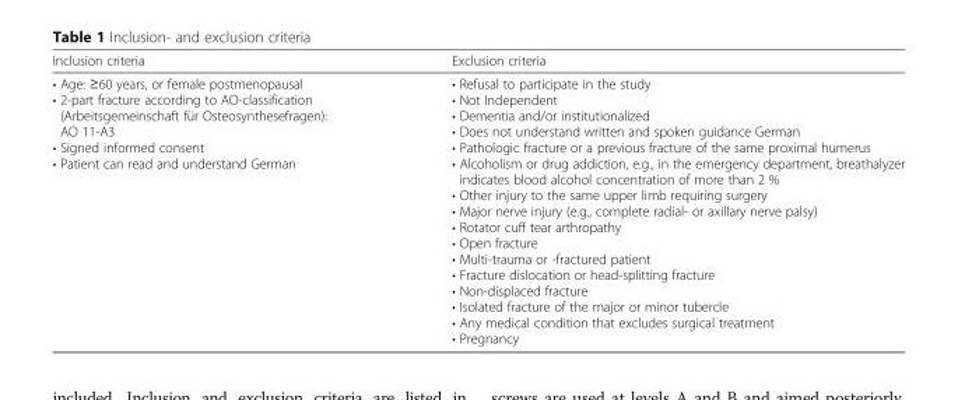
<table><thead><tr><td>Inclusion criteria</td><td>Exclusion criteria</td></tr></thead><tbody><tr><td>• Age: ≥60 years, or female postmenopausal • 2-part fracture according to AO-classification (Arbeitsgemeinschaft für Osteosynthesefragen): AO 11-A3 • Signed informed consent • Patient can read and understand German</td><td>• Refusal to participate in the study • Not Independent • Dementia and/or institutionalized • Does not understand written and spoken guidance German • Pathologic fracture or a previous fracture of the same proximal humerus • Alcoholism or drug addiction, e.g., in the emergency department, breathalyzer indicates blood alcohol concentration of more than 2 % • Other injury to the same upper limb requiring surgery • Major nerve injury (e.g., complete radial- or axillary nerve palsy) • Rotator cuff tear arthropathy • Open fracture • Multi-trauma or -fractured patient • Fracture dislocation or head-splitting fracture • Non-displaced fracture • Isolated fracture of the major or minor tubercle • Any medical condition that excludes surgical treatment • Pregnancy</td></tr></tbody></table>